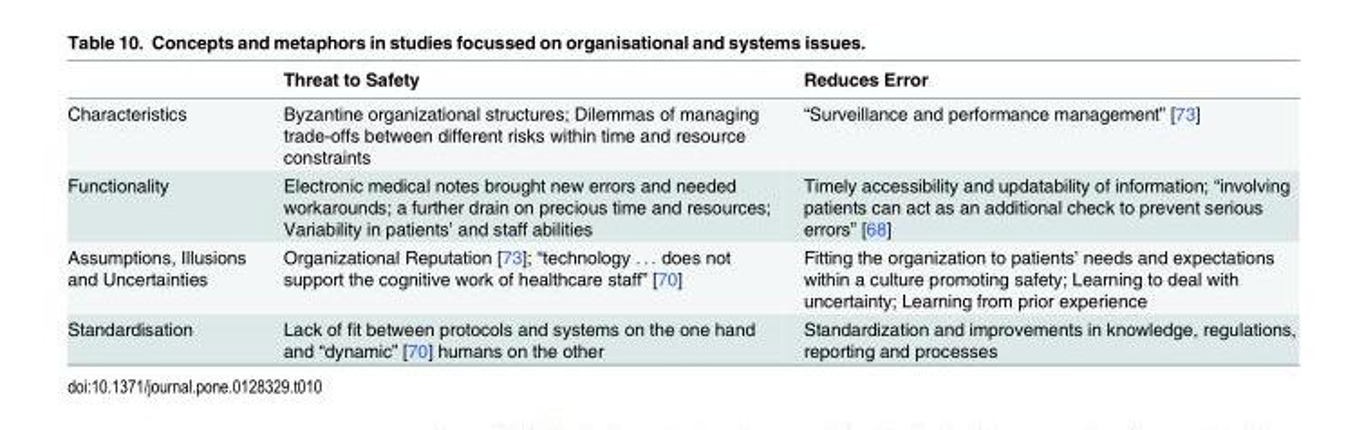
<table><thead><tr><td></td><td>Threat to Safety</td><td>Reduces Error</td></tr></thead><tbody><tr><td>Characteristics</td><td>Byzantine organizational structures; Dilemmas of managing trade-offs between different risks within time and resource constraints</td><td>“Surveillance and performance management” [73]</td></tr><tr><td>Functionality</td><td>Electronic medical notes brought new errors and needed workarounds; a further drain on precious time and resources; Variability in patients’ and staff abilities</td><td>Timely accessibility and updatability of information; “involving patients can act as an additional check to prevent serious errors” [68]</td></tr><tr><td>Assumptions, Illusions and Uncertainties</td><td>Organizational Reputation [73]; “technology . . . does not support the cognitive work of healthcare staff” [70]</td><td>Fitting the organization to patients’ needs and expectations within a culture promoting safety; Learning to deal with uncertainty; Learning from prior experience</td></tr><tr><td>Standardisation</td><td>Lack of fit between protocols and systems on the one hand and “dynamic” [70] humans on the other</td><td>Standardization and improvements in knowledge, regulations, reporting and processes</td></tr></tbody></table>